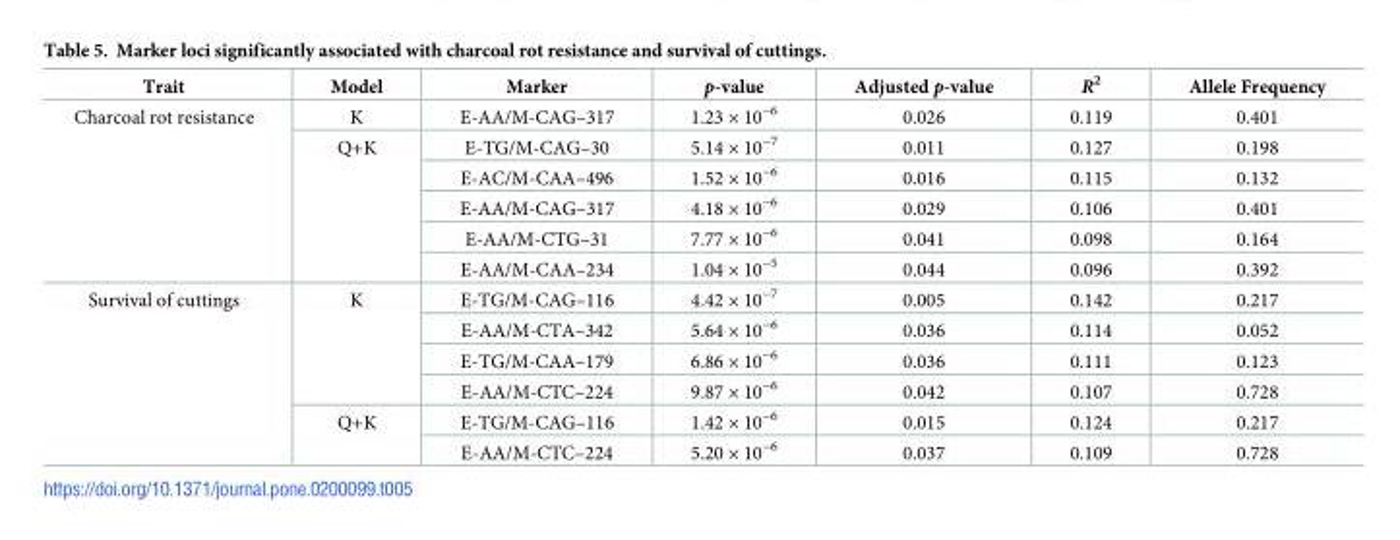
<table><thead><tr><td>Trait</td><td>Model</td><td>Marker</td><td>p-value</td><td>Adjusted p-value</td><td>R<sup>2</sup></td><td>Allele Frequency</td></tr></thead><tbody><tr><td rowspan="6">Charcoal rot resistance</td><td>K</td><td>E-AA/M-CAG–317</td><td>1.23 × 10<sup>−6</sup></td><td>0.026</td><td>0.119</td><td>0.401</td></tr><tr><td rowspan="5">Q+K</td><td>E-TG/M-CAG–30</td><td>5.14 × 10<sup>−7</sup></td><td>0.011</td><td>0.127</td><td>0.198</td></tr><tr><td>E-AC/M-CAA–496</td><td>1.52 × 10<sup>−6</sup></td><td>0.016</td><td>0.115</td><td>0.132</td></tr><tr><td>E-AA/M-CAG–317</td><td>4.18 × 10<sup>−6</sup></td><td>0.029</td><td>0.106</td><td>0.401</td></tr><tr><td>E-AA/M-CTG–31</td><td>7.77 × 10<sup>−6</sup></td><td>0.041</td><td>0.098</td><td>0.164</td></tr><tr><td>E-AA/M-CAA–234</td><td>1.04 × 10<sup>−5</sup></td><td>0.044</td><td>0.096</td><td>0.392</td></tr><tr><td rowspan="6">Survival of cuttings</td><td rowspan="4">K</td><td>E-TG/M-CAG–116</td><td>4.42 × 10<sup>−7</sup></td><td>0.005</td><td>0.142</td><td>0.217</td></tr><tr><td>E-AA/M-CTA–342</td><td>5.64 × 10<sup>−6</sup></td><td>0.036</td><td>0.114</td><td>0.052</td></tr><tr><td>E-TG/M-CAA–179</td><td>6.86 × 10<sup>−6</sup></td><td>0.036</td><td>0.111</td><td>0.123</td></tr><tr><td>E-AA/M-CTC–224</td><td>9.87 × 10<sup>−6</sup></td><td>0.042</td><td>0.107</td><td>0.728</td></tr><tr><td rowspan="2">Q+K</td><td>E-TG/M-CAG–116</td><td>1.42 × 10<sup>−6</sup></td><td>0.015</td><td>0.124</td><td>0.217</td></tr><tr><td>E-AA/M-CTC–224</td><td>5.20 × 10<sup>−6</sup></td><td>0.037</td><td>0.109</td><td>0.728</td></tr></tbody></table>